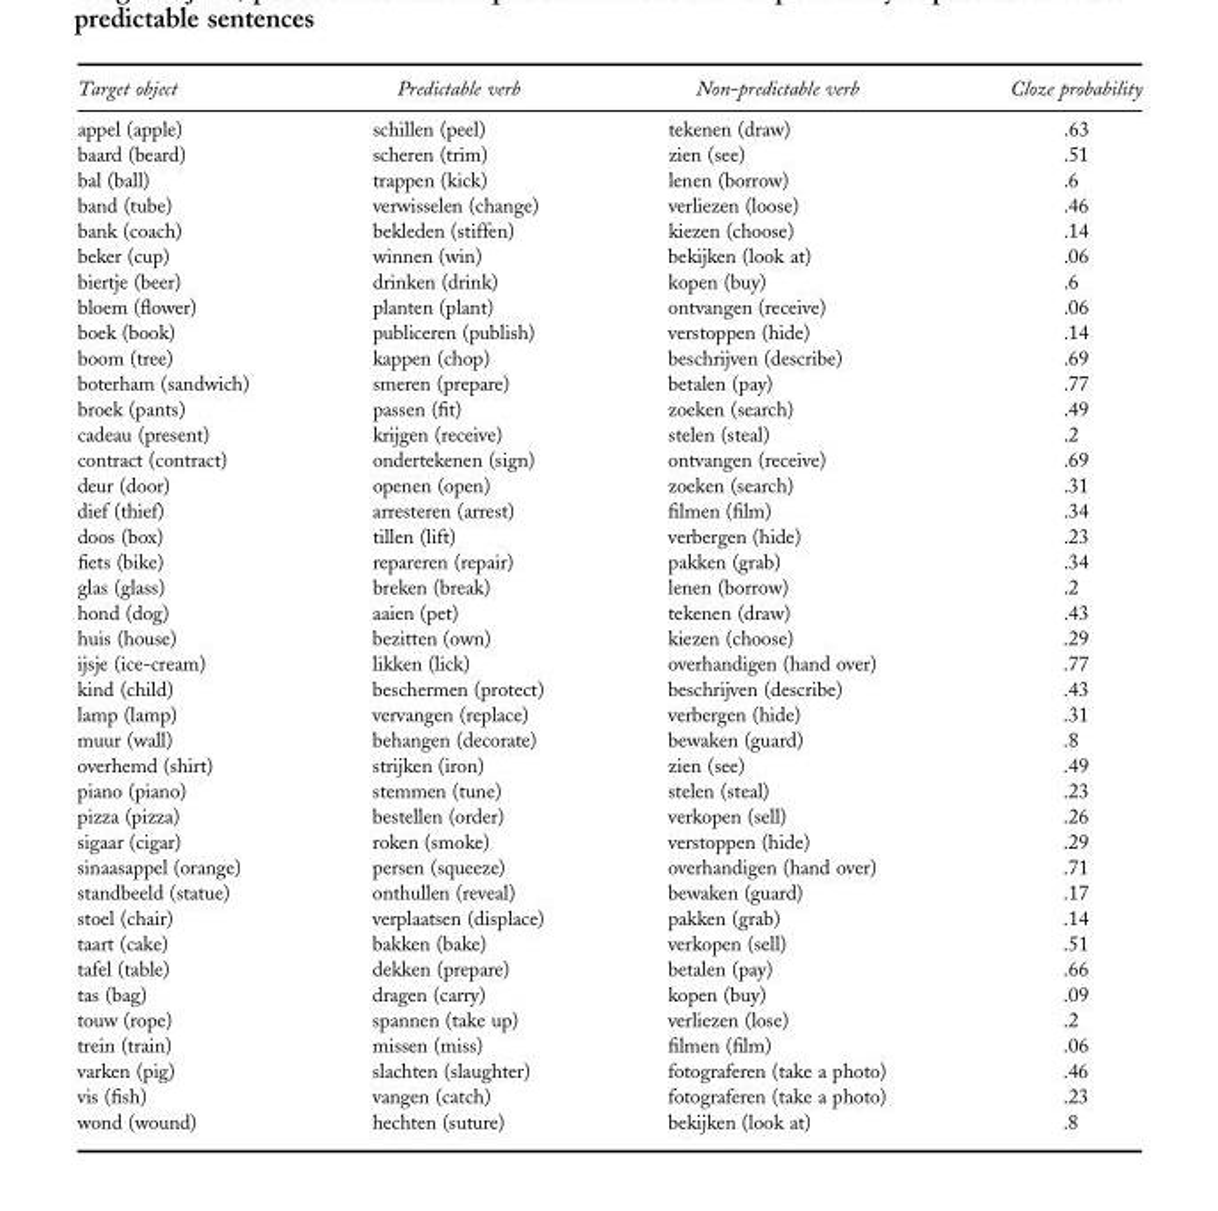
<table><thead><tr><td>Target object</td><td>Predictable verb</td><td>Non-predictable verb</td><td>Cloze probability</td></tr></thead><tbody><tr><td>appel (apple)</td><td>schillen (peel)</td><td>tekenen (draw)</td><td>.63</td></tr><tr><td>baard (beard)</td><td>scheren (trim)</td><td>zien (see)</td><td>.51</td></tr><tr><td>bal (ball)</td><td>trappen (kick)</td><td>lenen (borrow)</td><td>.6</td></tr><tr><td>band (tube)</td><td>verwisselen (change)</td><td>verliezen (loose)</td><td>.46</td></tr><tr><td>bank (coach)</td><td>bekleden (stiffen)</td><td>kiezen (choose)</td><td>.14</td></tr><tr><td>beker (cup)</td><td>winnen (win)</td><td>bekijken (look at)</td><td>.06</td></tr><tr><td>biertje (beer)</td><td>drinken (drink)</td><td>kopen (buy)</td><td>.6</td></tr><tr><td>bloem (flower)</td><td>planten (plant)</td><td>ontvangen (receive)</td><td>.06</td></tr><tr><td>boek (book)</td><td>publiceren (publish)</td><td>verstoppen (hide)</td><td>.14</td></tr><tr><td>boom (tree)</td><td>kappen (chop)</td><td>beschrijven (describe)</td><td>.69</td></tr><tr><td>boterham (sandwich)</td><td>smeren (prepare)</td><td>betalen (pay)</td><td>.77</td></tr><tr><td>broek (pants)</td><td>passen (fit)</td><td>zoeken (search)</td><td>.49</td></tr><tr><td>cadeau (present)</td><td>krijgen (receive)</td><td>stelen (steal)</td><td>.2</td></tr><tr><td>contract (contract)</td><td>ondertekenen (sign)</td><td>ontvangen (receive)</td><td>.69</td></tr><tr><td>deur (door)</td><td>openen (open)</td><td>zoeken (search)</td><td>.31</td></tr><tr><td>dief (thief)</td><td>arresteren (arrest)</td><td>filmen (film)</td><td>.34</td></tr><tr><td>doos (box)</td><td>tillen (lift)</td><td>verbergen (hide)</td><td>.23</td></tr><tr><td>fiets (bike)</td><td>repareren (repair)</td><td>pakken (grab)</td><td>.34</td></tr><tr><td>glas (glass)</td><td>breken (break)</td><td>lenen (borrow)</td><td>.2</td></tr><tr><td>hond (dog)</td><td>aaien (pet)</td><td>tekenen (draw)</td><td>.43</td></tr><tr><td>huis (house)</td><td>bezitten (own)</td><td>kiezen (choose)</td><td>.29</td></tr><tr><td>ijsje (ice-cream)</td><td>likken (lick)</td><td>overhandigen (hand over)</td><td>.77</td></tr><tr><td>kind (child)</td><td>beschermen (protect)</td><td>beschrijven (describe)</td><td>.43</td></tr><tr><td>lamp (lamp)</td><td>vervangen (replace)</td><td>verbergen (hide)</td><td>.31</td></tr><tr><td>muur (wall)</td><td>behangen (decorate)</td><td>bewaken (guard)</td><td>.8</td></tr><tr><td>overhemd (shirt)</td><td>strijken (iron)</td><td>zien (see)</td><td>.49</td></tr><tr><td>piano (piano)</td><td>stemmen (tune)</td><td>stelen (steal)</td><td>.23</td></tr><tr><td>pizza (pizza)</td><td>bestellen (order)</td><td>verkopen (sell)</td><td>.26</td></tr><tr><td>sigaar (cigar)</td><td>roken (smoke)</td><td>verstoppen (hide)</td><td>.29</td></tr><tr><td>sinaasappel (orange)</td><td>persen (squeeze)</td><td>overhandigen (hand over)</td><td>.71</td></tr><tr><td>standbeeld (statue)</td><td>onthullen (reveal)</td><td>bewaken (guard)</td><td>.17</td></tr><tr><td>stoel (chair)</td><td>verplaatsen (displace)</td><td>pakken (grab)</td><td>.14</td></tr><tr><td>taart (cake)</td><td>bakken (bake)</td><td>verkopen (sell)</td><td>.51</td></tr><tr><td>tafel (table)</td><td>dekken (prepare)</td><td>betalen (pay)</td><td>.66</td></tr><tr><td>tas (bag)</td><td>dragen (carry)</td><td>kopen (buy)</td><td>.09</td></tr><tr><td>touw (rope)</td><td>spannen (take up)</td><td>verliezen (lose)</td><td>.2</td></tr><tr><td>trein (train)</td><td>missen (miss)</td><td>filmen (film)</td><td>.06</td></tr><tr><td>varken (pig)</td><td>slachten (slaughter)</td><td>fotograferen (take a photo)</td><td>.46</td></tr><tr><td>vis (fish)</td><td>vangen (catch)</td><td>fotograferen (take a photo)</td><td>.23</td></tr><tr><td>wond (wound)</td><td>hechten (suture)</td><td>bekijken (look at)</td><td>.8</td></tr></tbody></table>